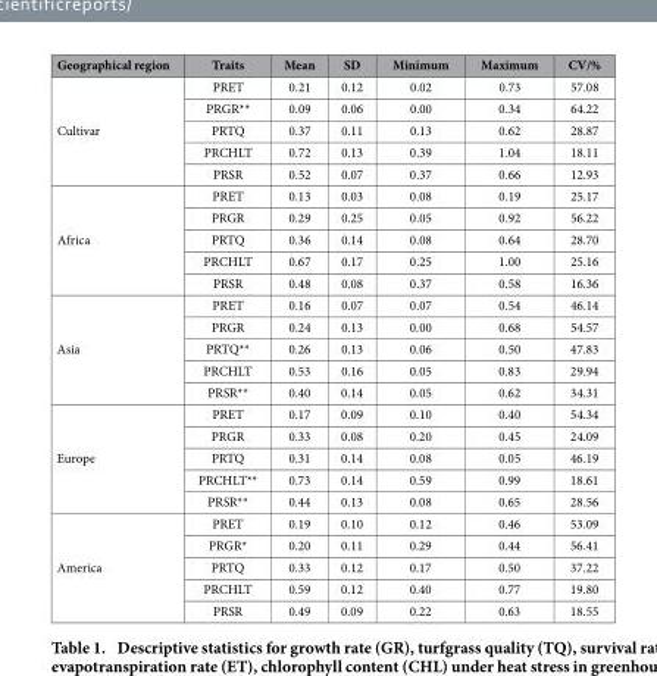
<table><thead><tr><td>Geographical region</td><td>Traits</td><td>Mean</td><td>SD</td><td>Minimum</td><td>Maximum</td><td>CV/%</td></tr></thead><tbody><tr><td rowspan="5">Cultivar</td><td>PRET</td><td>0.21</td><td>0.12</td><td>0.02</td><td>0.73</td><td>57.08</td></tr><tr><td>PRGR**</td><td>0.09</td><td>0.06</td><td>0.00</td><td>0.34</td><td>64.22</td></tr><tr><td>PRTQ</td><td>0.37</td><td>0.11</td><td>0.13</td><td>0.62</td><td>28.87</td></tr><tr><td>PRCHLT</td><td>0.72</td><td>0.13</td><td>0.39</td><td>1.04</td><td>18.11</td></tr><tr><td>PRSR</td><td>0.52</td><td>0.07</td><td>0.37</td><td>0.66</td><td>12.93</td></tr><tr><td rowspan="5">Africa</td><td>PRET</td><td>0.13</td><td>0.03</td><td>0.08</td><td>0.19</td><td>25.17</td></tr><tr><td>PRGR</td><td>0.29</td><td>0.25</td><td>0.05</td><td>0.92</td><td>56.22</td></tr><tr><td>PRTQ</td><td>0.36</td><td>0.14</td><td>0.08</td><td>0.64</td><td>28.70</td></tr><tr><td>PRCHLT</td><td>0.67</td><td>0.17</td><td>0.25</td><td>1.00</td><td>25.16</td></tr><tr><td>PRSR</td><td>0.48</td><td>0.08</td><td>0.37</td><td>0.58</td><td>16.36</td></tr><tr><td rowspan="5">Asia</td><td>PRET</td><td>0.16</td><td>0.07</td><td>0.07</td><td>0.54</td><td>46.14</td></tr><tr><td>PRGR</td><td>0.24</td><td>0.13</td><td>0.00</td><td>0.68</td><td>54.57</td></tr><tr><td>PRTQ**</td><td>0.26</td><td>0.13</td><td>0.06</td><td>0.50</td><td>47.83</td></tr><tr><td>PRCHLT</td><td>0.53</td><td>0.16</td><td>0.05</td><td>0.83</td><td>29.94</td></tr><tr><td>PRSR**</td><td>0.40</td><td>0.14</td><td>0.05</td><td>0.62</td><td>34.31</td></tr><tr><td rowspan="5">Europe</td><td>PRET</td><td>0.17</td><td>0.09</td><td>0.10</td><td>0.40</td><td>54.34</td></tr><tr><td>PRGR</td><td>0.33</td><td>0.08</td><td>0.20</td><td>0.45</td><td>24.09</td></tr><tr><td>PRTQ</td><td>0.31</td><td>0.14</td><td>0.08</td><td>0.05</td><td>46.19</td></tr><tr><td>PRCHLT**</td><td>0.73</td><td>0.14</td><td>0.59</td><td>0.99</td><td>18.61</td></tr><tr><td>PRSR**</td><td>0.44</td><td>0.13</td><td>0.08</td><td>0.65</td><td>28.56</td></tr><tr><td rowspan="5">America</td><td>PRET</td><td>0.19</td><td>0.10</td><td>0.12</td><td>0.46</td><td>53.09</td></tr><tr><td>PRGR*</td><td>0.20</td><td>0.11</td><td>0.29</td><td>0.44</td><td>56.41</td></tr><tr><td>PRTQ</td><td>0.33</td><td>0.12</td><td>0.17</td><td>0.50</td><td>37.22</td></tr><tr><td>PRCHLT</td><td>0.59</td><td>0.12</td><td>0.40</td><td>0.77</td><td>19.80</td></tr><tr><td>PRSR</td><td>0.49</td><td>0.09</td><td>0.22</td><td>0.63</td><td>18.55</td></tr></tbody></table>